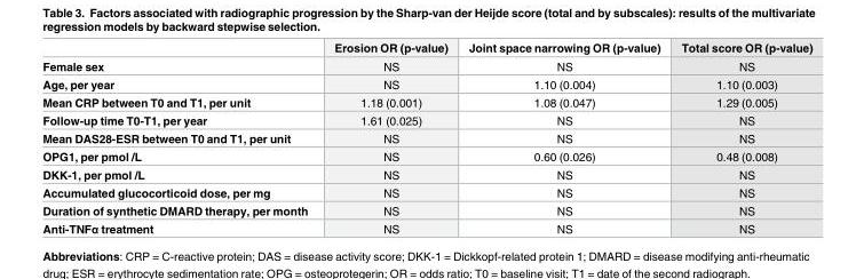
<table><thead><tr><td></td><td>Erosion OR (p-value)</td><td>Joint space narrowing OR (p-value)</td><td>Total score OR (p-value)</td></tr></thead><tbody><tr><td>Female sex</td><td>NS</td><td>NS</td><td>NS</td></tr><tr><td>Age, per year</td><td>NS</td><td>1.10 (0.004)</td><td>1.10 (0.003)</td></tr><tr><td>Mean CRP between T0 and T1, per unit</td><td>1.18 (0.001)</td><td>1.08 (0.047)</td><td>1.29 (0.005)</td></tr><tr><td>Follow-up time T0-T1, per year</td><td>1.61 (0.025)</td><td>NS</td><td>NS</td></tr><tr><td>Mean DAS28-ESR between T0 and T1, per unit</td><td>NS</td><td>NS</td><td>NS</td></tr><tr><td>OPG1, per pmol /L</td><td>NS</td><td>0.60 (0.026)</td><td>0.48 (0.008)</td></tr><tr><td>DKK-1, per pmol /L</td><td>NS</td><td>NS</td><td>NS</td></tr><tr><td>Accumulated glucocorticoid dose, per mg</td><td>NS</td><td>NS</td><td>NS</td></tr><tr><td>Duration of synthetic DMARD therapy, per month</td><td>NS</td><td>NS</td><td>NS</td></tr><tr><td>Anti-TNFα treatment</td><td>NS</td><td>NS</td><td>NS</td></tr></tbody></table>